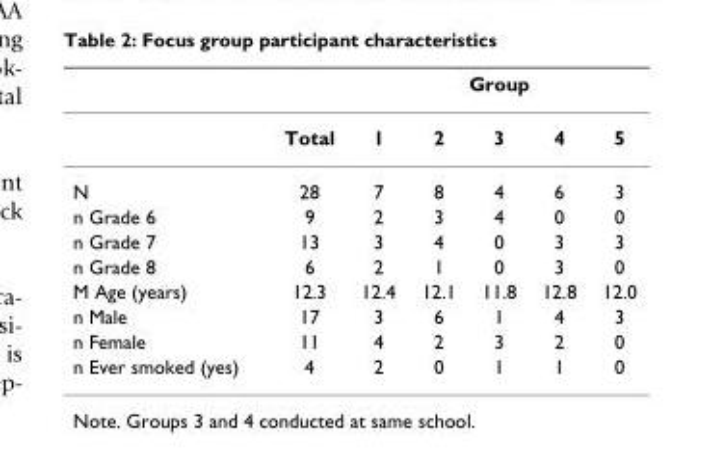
<table><thead><tr><td rowspan="2"></td><td rowspan="2">Total</td><td colspan="5">Group</td></tr><tr><td>1</td><td>2</td><td>3</td><td>4</td><td>5</td></tr></thead><tbody><tr><td>N</td><td>28</td><td>7</td><td>8</td><td>4</td><td>6</td><td>3</td></tr><tr><td>n Grade 6</td><td>9</td><td>2</td><td>3</td><td>4</td><td>0</td><td>0</td></tr><tr><td>n Grade 7</td><td>13</td><td>3</td><td>4</td><td>0</td><td>3</td><td>3</td></tr><tr><td>n Grade 8</td><td>6</td><td>2</td><td>1</td><td>0</td><td>3</td><td>0</td></tr><tr><td>M Age (years)</td><td>12.3</td><td>12.4</td><td>12.1</td><td>11.8</td><td>12.8</td><td>12.0</td></tr><tr><td>n Male</td><td>17</td><td>3</td><td>6</td><td>1</td><td>4</td><td>3</td></tr><tr><td>n Female</td><td>11</td><td>4</td><td>2</td><td>3</td><td>2</td><td>0</td></tr><tr><td>n Ever smoked (yes)</td><td>4</td><td>2</td><td>0</td><td>1</td><td>1</td><td>0</td></tr></tbody></table>